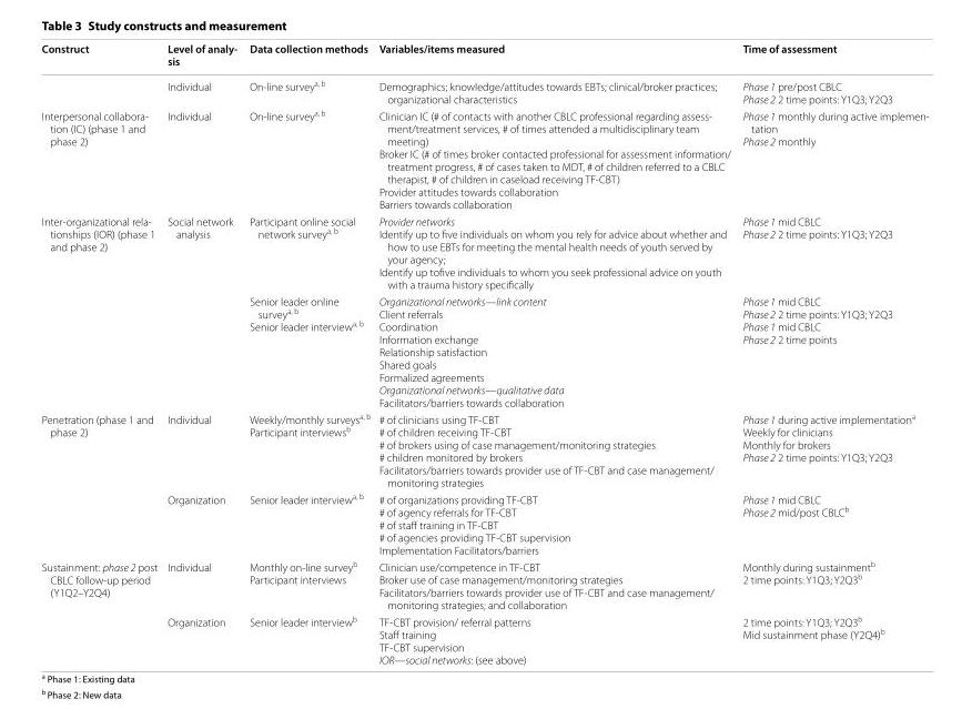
<table><thead><tr><td>Construct</td><td>Level of analy‑ sis</td><td>Data collection methods</td><td>Variables/items measured</td><td>Time of assessment</td></tr></thead><tbody><tr><td></td><td>Individual</td><td>On-line survey<sup>a, b</sup></td><td>Demographics; knowledge/attitudes towards EBTs; clinical/broker practices; organizational characteristics</td><td>Phase 1 pre/post CBLC Phase 2 2 time points: Y1Q3; Y2Q3</td></tr><tr><td>Interpersonal collabora- tion (IC) (phase 1 and phase 2)</td><td>Individual</td><td>On-line survey<sup>a, b</sup></td><td>Clinician IC (# of contacts with another CBLC professional regarding assess- ment/treatment services, # of times attended a multidisciplinary team meeting) Broker IC (# of times broker contacted professional for assessment information/ treatment progress, # of cases taken to MDT, # of children referred to a CBLC therapist, # of children in caseload receiving TF-CBT) Provider attitudes towards collaboration Barriers towards collaboration</td><td>Phase 1 monthly during active implemen- tation Phase 2 monthly</td></tr><tr><td rowspan="2">Inter-organizational rela- tionships (IOR) (phase 1 and phase 2)</td><td>Social network analysis</td><td>Participant online social network survey<sup>a, b</sup></td><td>Provider networks Identify up to five individuals on whom you rely for advice about whether and how to use EBTs for meeting the mental health needs of youth served by your agency; Identify up tofive individuals to whom you seek professional advice on youth with a trauma history specifically</td><td>Phase 1 mid CBLC Phase 2 2 time points: Y1Q3; Y2Q3</td></tr><tr><td></td><td>Senior leader online survey<sup>a, b</sup> Senior leader interview<sup>a, b</sup></td><td>Organizational networks—link content Client referrals Coordination Information exchange Relationship satisfaction Shared goals Formalized agreements Organizational networks—qualitative data Facilitators/barriers towards collaboration</td><td>Phase 1 mid CBLC Phase 2 2 time points: Y1Q3; Y2Q3 Phase 1 mid CBLC Phase 2 2 time points</td></tr><tr><td rowspan="2">Penetration (phase 1 and phase 2)</td><td>Individual</td><td>Weekly/monthly surveys<sup>a, b</sup> Participant interviews<sup>b</sup></td><td># of clinicians using TF-CBT # of children receiving TF-CBT # of brokers using of case management/monitoring strategies # children monitored by brokers Facilitators/barriers towards provider use of TF-CBT and case management/ monitoring strategies</td><td>Phase 1 during active implementation<sup>a</sup> Weekly for clinicians Monthly for brokers Phase 2 2 time points: Y1Q3; Y2Q3</td></tr><tr><td>Organization</td><td>Senior leader interview<sup>a, b</sup></td><td># of organizations providing TF-CBT # of agency referrals for TF-CBT # of staff training in TF-CBT # of agencies providing TF-CBT supervision Implementation Facilitators/barriers</td><td>Phase 1 mid CBLC Phase 2 mid/post CBLC<sup>b</sup></td></tr><tr><td rowspan="2">Sustainment: phase 2 post CBLC follow-up period (Y1Q2–Y2Q4)</td><td>Individual</td><td>Monthly on-line survey<sup>b</sup> Participant interviews</td><td>Clinician use/competence in TF-CBT Broker use of case management/monitoring strategies Facilitators/barriers towards provider use of TF-CBT and case management/ monitoring strategies; and collaboration</td><td>Monthly during sustainment<sup>b</sup> 2 time points: Y1Q3; Y2Q3<sup>b</sup></td></tr><tr><td>Organization</td><td>Senior leader interview<sup>b</sup></td><td>TF-CBT provision/ referral patterns Staff training TF-CBT supervision IOR—social networks: (see above)</td><td>2 time points: Y1Q3; Y2Q3<sup>b</sup> Mid sustainment phase (Y2Q4)<sup>b</sup></td></tr></tbody></table>